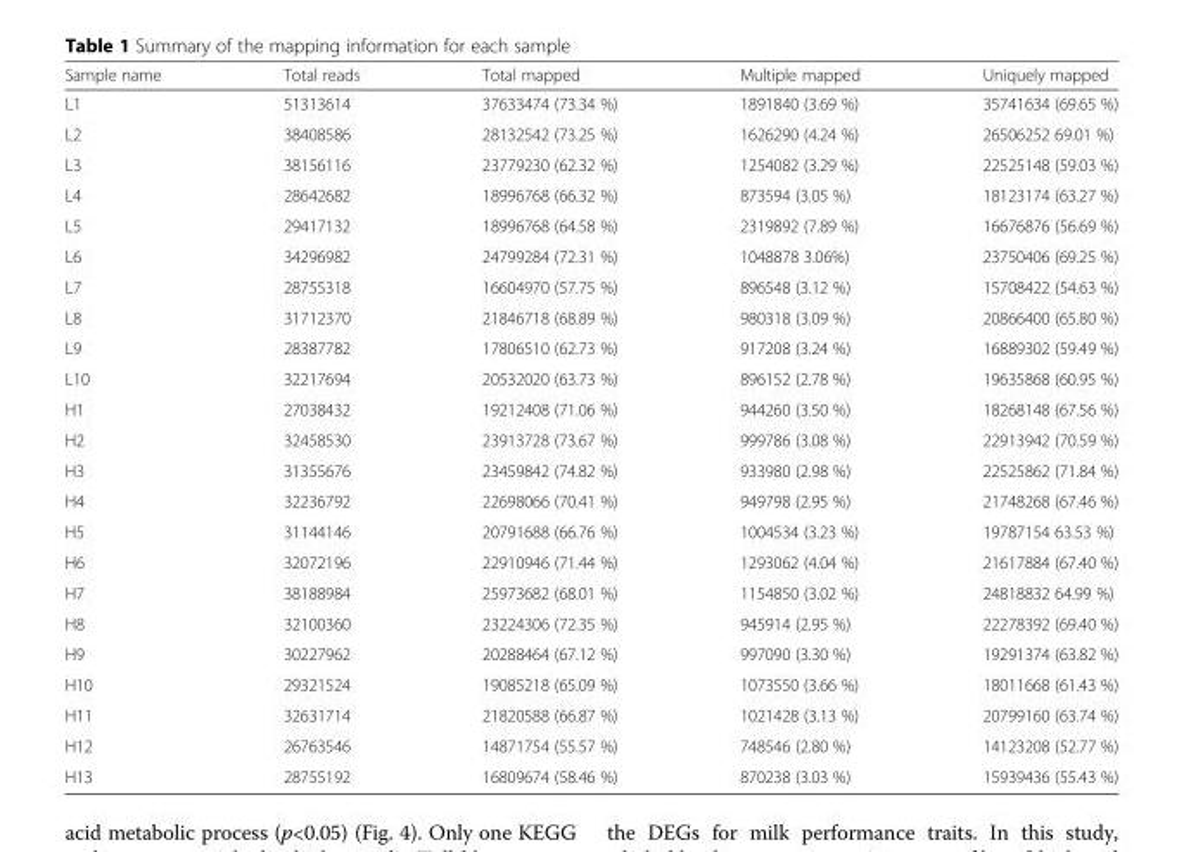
<table><thead><tr><td>Sample name</td><td>Total reads</td><td>Total mapped</td><td>Multiple mapped</td><td>Uniquely mapped</td></tr></thead><tbody><tr><td>L1</td><td>51313614</td><td>37633474 (73.34 %)</td><td>1891840 (3.69 %)</td><td>35741634 (69.65 %)</td></tr><tr><td>L2</td><td>38408586</td><td>28132542 (73.25 %)</td><td>1626290 (4.24 %)</td><td>26506252 69.01 %)</td></tr><tr><td>L3</td><td>38156116</td><td>23779230 (62.32 %)</td><td>1254082 (3.29 %)</td><td>22525148 (59.03 %)</td></tr><tr><td>L4</td><td>28642682</td><td>18996768 (66.32 %)</td><td>873594 (3.05 %)</td><td>18123174 (63.27 %)</td></tr><tr><td>L5</td><td>29417132</td><td>18996768 (64.58 %)</td><td>2319892 (7.89 %)</td><td>16676876 (56.69 %)</td></tr><tr><td>L6</td><td>34296982</td><td>24799284 (72.31 %)</td><td>1048878 3.06%)</td><td>23750406 (69.25 %)</td></tr><tr><td>L7</td><td>28755318</td><td>16604970 (57.75 %)</td><td>896548 (3.12 %)</td><td>15708422 (54.63 %)</td></tr><tr><td>L8</td><td>31712370</td><td>21846718 (68.89 %)</td><td>980318 (3.09 %)</td><td>20866400 (65.80 %)</td></tr><tr><td>L9</td><td>28387782</td><td>17806510 (62.73 %)</td><td>917208 (3.24 %)</td><td>16889302 (59.49 %)</td></tr><tr><td>L10</td><td>32217694</td><td>20532020 (63.73 %)</td><td>896152 (2.78 %)</td><td>19635868 (60.95 %)</td></tr><tr><td>H1</td><td>27038432</td><td>19212408 (71.06 %)</td><td>944260 (3.50 %)</td><td>18268148 (67.56 %)</td></tr><tr><td>H2</td><td>32458530</td><td>23913728 (73.67 %)</td><td>999786 (3.08 %)</td><td>22913942 (70.59 %)</td></tr><tr><td>H3</td><td>31355676</td><td>23459842 (74.82 %)</td><td>933980 (2.98 %)</td><td>22525862 (71.84 %)</td></tr><tr><td>H4</td><td>32236792</td><td>22698066 (70.41 %)</td><td>949798 (2.95 %)</td><td>21748268 (67.46 %)</td></tr><tr><td>H5</td><td>31144146</td><td>20791688 (66.76 %)</td><td>1004534 (3.23 %)</td><td>19787154 63.53 %)</td></tr><tr><td>H6</td><td>32072196</td><td>22910946 (71.44 %)</td><td>1293062 (4.04 %)</td><td>21617884 (67.40 %)</td></tr><tr><td>H7</td><td>38188984</td><td>25973682 (68.01 %)</td><td>1154850 (3.02 %)</td><td>24818832 64.99 %)</td></tr><tr><td>H8</td><td>32100360</td><td>23224306 (72.35 %)</td><td>945914 (2.95 %)</td><td>22278392 (69.40 %)</td></tr><tr><td>H9</td><td>30227962</td><td>20288464 (67.12 %)</td><td>997090 (3.30 %)</td><td>19291374 (63.82 %)</td></tr><tr><td>H10</td><td>29321524</td><td>19085218 (65.09 %)</td><td>1073550 (3.66 %)</td><td>18011668 (61.43 %)</td></tr><tr><td>H11</td><td>32631714</td><td>21820588 (66.87 %)</td><td>1021428 (3.13 %)</td><td>20799160 (63.74 %)</td></tr><tr><td>H12</td><td>26763546</td><td>14871754 (55.57 %)</td><td>748546 (2.80 %)</td><td>14123208 (52.77 %)</td></tr><tr><td>H13</td><td>28755192</td><td>16809674 (58.46 %)</td><td>870238 (3.03 %)</td><td>15939436 (55.43 %)</td></tr></tbody></table>